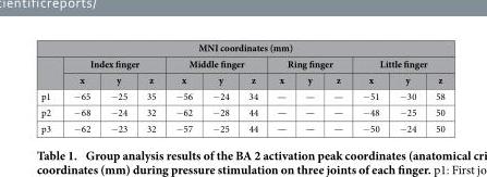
<table><thead><tr><td colspan="13">MNI coordinates (mm)</td></tr><tr><td rowspan="2"></td><td colspan="3">Index finger</td><td colspan="3">Middle finger</td><td colspan="3">Ring finger</td><td colspan="3">Little finger</td></tr><tr><td>x</td><td>y</td><td>z</td><td>x</td><td>y</td><td>z</td><td>x</td><td>y</td><td>z</td><td>x</td><td>y</td><td>z</td></tr></thead><tbody><tr><td>p1</td><td>− 65</td><td>− 25</td><td>35</td><td>− 56</td><td>− 24</td><td>34</td><td>—</td><td>—</td><td>—</td><td>− 51</td><td>− 30</td><td>58</td></tr><tr><td>p2</td><td>− 68</td><td>− 24</td><td>32</td><td>− 62</td><td>− 28</td><td>44</td><td>—</td><td>—</td><td>—</td><td>− 48</td><td>− 25</td><td>50</td></tr><tr><td>p3</td><td>− 62</td><td>− 23</td><td>32</td><td>− 57</td><td>− 25</td><td>44</td><td>—</td><td>—</td><td>—</td><td>− 50</td><td>− 24</td><td>50</td></tr></tbody></table>